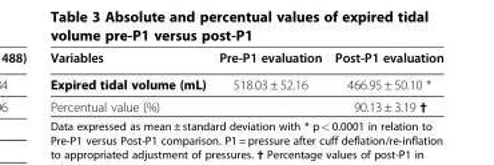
<table><thead><tr><td>Variables</td><td>Pre-P1 evaluation</td><td>Post-P1 evaluation</td></tr></thead><tbody><tr><td>Expired tidal volume (mL)</td><td>518.03 ± 52.16</td><td>466.95 ± 50.10 *</td></tr><tr><td>Percentual value (%)</td><td></td><td>90.13 ± 3.19 †</td></tr></tbody></table>